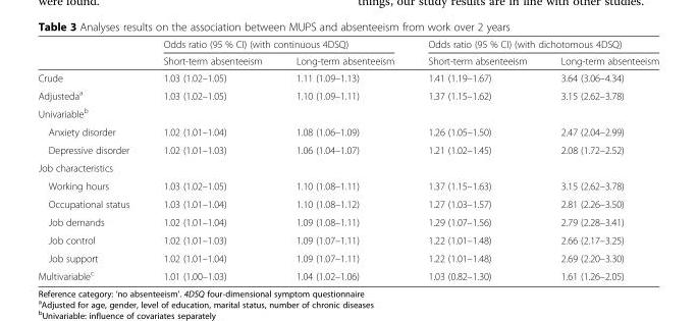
<table><thead><tr><td rowspan="2"></td><td colspan="2">Odds ratio (95 % CI) (with continuous 4DSQ)</td><td colspan="2">Odds ratio (95 % CI) (with dichotomous 4DSQ)</td></tr><tr><td>Short-term absenteeism</td><td>Long-term absenteeism</td><td>Short-term absenteeism</td><td>Long-term absenteeism</td></tr></thead><tbody><tr><td>Crude</td><td>1.03 (1.02–1.05)</td><td>1.11 (1.09–1.13)</td><td>1.41 (1.19–1.67)</td><td>3.64 (3.06–4.34)</td></tr><tr><td>Adjusteda<sup>a</sup></td><td>1.03 (1.02–1.05)</td><td>1.10 (1.09–1.11)</td><td>1.37 (1.15–1.62)</td><td>3.15 (2.62–3.78)</td></tr><tr><td colspan="5">Univariable<sup>b</sup></td></tr><tr><td>Anxiety disorder</td><td>1.02 (1.01–1.04)</td><td>1.08 (1.06–1.09)</td><td>1.26 (1.05–1.50)</td><td>2.47 (2.04–2.99)</td></tr><tr><td>Depressive disorder</td><td>1.02 (1.01–1.03)</td><td>1.06 (1.04–1.07)</td><td>1.21 (1.02–1.45)</td><td>2.08 (1.72–2.52)</td></tr><tr><td colspan="5">Job characteristics</td></tr><tr><td>Working hours</td><td>1.03 (1.02–1.05)</td><td>1.10 (1.08–1.11)</td><td>1.37 (1.15–1.63)</td><td>3.15 (2.62–3.78)</td></tr><tr><td>Occupational status</td><td>1.03 (1.01–1.04)</td><td>1.10 (1.08–1.12)</td><td>1.27 (1.03–1.57)</td><td>2.81 (2.26–3.50)</td></tr><tr><td>Job demands</td><td>1.02 (1.01–1.04)</td><td>1.09 (1.08–1.11)</td><td>1.29 (1.07–1.56)</td><td>2.79 (2.28–3.41)</td></tr><tr><td>Job control</td><td>1.02 (1.01–1.03)</td><td>1.09 (1.07–1.11)</td><td>1.22 (1.01–1.48)</td><td>2.66 (2.17–3.25)</td></tr><tr><td>Job support</td><td>1.02 (1.01–1.04)</td><td>1.09 (1.07–1.11)</td><td>1.22 (1.01–1.48)</td><td>2.69 (2.20–3.30)</td></tr><tr><td>Multivariable<sup>c</sup></td><td>1.01 (1.00–1.03)</td><td>1.04 (1.02–1.06)</td><td>1.03 (0.82–1.30)</td><td>1.61 (1.26–2.05)</td></tr></tbody></table>